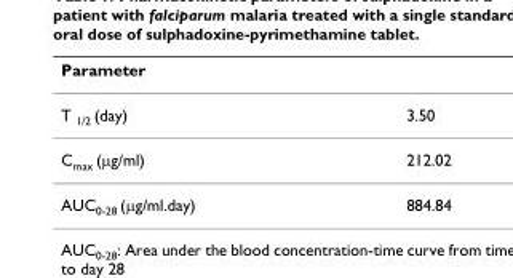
<table><thead><tr><td>Parameter</td><td></td></tr></thead><tbody><tr><td>T <sub>1/2</sub> (day)</td><td>3.50</td></tr><tr><td>C<sub>max</sub> (μg/ml)</td><td>212.02</td></tr><tr><td>AUC<sub>0-28</sub> (μg/ml.day)</td><td>884.84</td></tr></tbody></table>